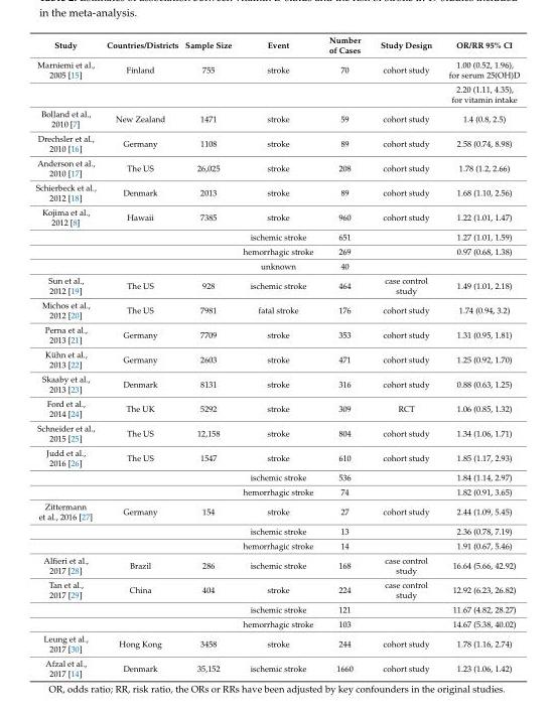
<table><thead><tr><td>Study</td><td>Countries/Districts</td><td>Sample Size</td><td>Event</td><td>Number of Cases</td><td>Study Design</td><td>OR/RR 95% CI</td></tr></thead><tbody><tr><td rowspan="2">Marniemi et al., 2005 [15]</td><td>Finland</td><td>755</td><td>stroke</td><td>70</td><td>cohort study</td><td>1.00 (0.52, 1.96), for serum 25(OH)D</td></tr><tr><td></td><td></td><td></td><td></td><td></td><td>2.20 (1.11, 4.35), for vitamin intake</td></tr><tr><td>Bolland et al., 2010 [7]</td><td>New Zealand</td><td>1471</td><td>stroke</td><td>59</td><td>cohort study</td><td>1.4 (0.8, 2.5)</td></tr><tr><td>Drechsler et al., 2010 [16]</td><td>Germany</td><td>1108</td><td>stroke</td><td>89</td><td>cohort study</td><td>2.58 (0.74, 8.98)</td></tr><tr><td>Anderson et al., 2010 [17]</td><td>The US</td><td>26,025</td><td>stroke</td><td>208</td><td>cohort study</td><td>1.78 (1.2, 2.66)</td></tr><tr><td>Schierbeck et al., 2012 [18]</td><td>Denmark</td><td>2013</td><td>stroke</td><td>89</td><td>cohort study</td><td>1.68 (1.10, 2.56)</td></tr><tr><td rowspan="4">Kojima et al., 2012 [8]</td><td>Hawaii</td><td>7385</td><td>stroke</td><td>960</td><td>cohort study</td><td>1.22 (1.01, 1.47)</td></tr><tr><td></td><td></td><td>ischemic stroke</td><td>651</td><td></td><td>1.27 (1.01, 1.59)</td></tr><tr><td></td><td></td><td>hemorrhagic stroke</td><td>269</td><td></td><td>0.97 (0.68, 1.38)</td></tr><tr><td></td><td></td><td>unknown</td><td>40</td><td></td><td></td></tr><tr><td>Sun et al., 2012 [19]</td><td>The US</td><td>928</td><td>ischemic stroke</td><td>464</td><td>case control study</td><td>1.49 (1.01, 2.18)</td></tr><tr><td>Michos et al., 2012 [20]</td><td>The US</td><td>7981</td><td>fatal stroke</td><td>176</td><td>cohort study</td><td>1.74 (0.94, 3.2)</td></tr><tr><td>Perna et al., 2013 [21]</td><td>Germany</td><td>7709</td><td>stroke</td><td>353</td><td>cohort study</td><td>1.31 (0.95, 1.81)</td></tr><tr><td>Kühn et al., 2013 [22]</td><td>Germany</td><td>2603</td><td>stroke</td><td>471</td><td>cohort study</td><td>1.25 (0.92, 1.70)</td></tr><tr><td>Skaaby et al., 2013 [23]</td><td>Denmark</td><td>8131</td><td>stroke</td><td>316</td><td>cohort study</td><td>0.88 (0.63, 1.25)</td></tr><tr><td>Ford et al., 2014 [24]</td><td>The UK</td><td>5292</td><td>stroke</td><td>309</td><td>RCT</td><td>1.06 (0.85, 1.32)</td></tr><tr><td>Schneider et al., 2015 [25]</td><td>The US</td><td>12,158</td><td>stroke</td><td>804</td><td>cohort study</td><td>1.34 (1.06, 1.71)</td></tr><tr><td rowspan="3">Judd et al., 2016 [26]</td><td>The US</td><td>1547</td><td>stroke</td><td>610</td><td>cohort study</td><td>1.85 (1.17, 2.93)</td></tr><tr><td></td><td></td><td>ischemic stroke</td><td>536</td><td></td><td>1.84 (1.14, 2.97)</td></tr><tr><td></td><td></td><td>hemorrhagic stroke</td><td>74</td><td></td><td>1.82 (0.91, 3.65)</td></tr><tr><td rowspan="3">Zittermann et al., 2016 [27]</td><td>Germany</td><td>154</td><td>stroke</td><td>27</td><td>cohort study</td><td>2.44 (1.09, 5.45)</td></tr><tr><td></td><td></td><td>ischemic stroke</td><td>13</td><td></td><td>2.36 (0.78, 7.19)</td></tr><tr><td></td><td></td><td>hemorrhagic stroke</td><td>14</td><td></td><td>1.91 (0.67, 5.46)</td></tr><tr><td>Alfieri et al., 2017 [28]</td><td>Brazil</td><td>286</td><td>ischemic stroke</td><td>168</td><td>case control study</td><td>16.64 (5.66, 42.92)</td></tr><tr><td rowspan="3">Tan et al., 2017 [29]</td><td>China</td><td>404</td><td>stroke</td><td>224</td><td>case control study</td><td>12.92 (6.23, 26.82)</td></tr><tr><td></td><td></td><td>ischemic stroke</td><td>121</td><td></td><td>11.67 (4.82, 28.27)</td></tr><tr><td></td><td></td><td>hemorrhagic stroke</td><td>103</td><td></td><td>14.67 (5.38, 40.02)</td></tr><tr><td>Leung et al., 2017 [30]</td><td>Hong Kong</td><td>3458</td><td>stroke</td><td>244</td><td>cohort study</td><td>1.78 (1.16, 2.74)</td></tr><tr><td>Afzal et al., 2017 [14]</td><td>Denmark</td><td>35,152</td><td>ischemic stroke</td><td>1660</td><td>cohort study</td><td>1.23 (1.06, 1.42)</td></tr></tbody></table>